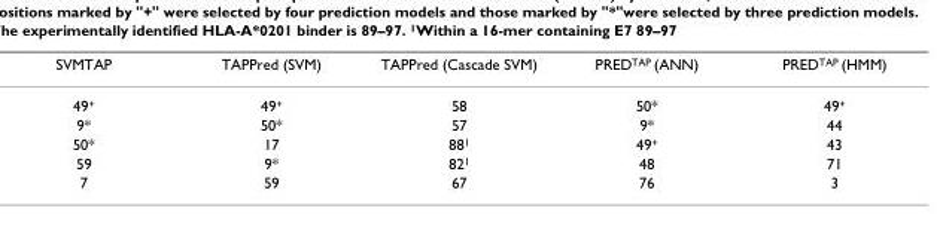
<table><thead><tr><td>SVMTAP</td><td>TAPPred (SVM)</td><td>TAPPred (Cascade SVM)</td><td>PRED<sup>TAP</sup> (ANN)</td><td>PRED<sup>TAP</sup> (HMM)</td></tr></thead><tbody><tr><td>49<sup>+</sup></td><td>49<sup>+</sup></td><td>58</td><td>50*</td><td>49<sup>+</sup></td></tr><tr><td>9*</td><td>50*</td><td>57</td><td>9*</td><td>44</td></tr><tr><td>50*</td><td>17</td><td>88<sup>1</sup></td><td>49<sup>+</sup></td><td>43</td></tr><tr><td>59</td><td>9*</td><td>82<sup>1</sup></td><td>48</td><td>71</td></tr><tr><td>7</td><td>59</td><td>67</td><td>76</td><td>3</td></tr></tbody></table>